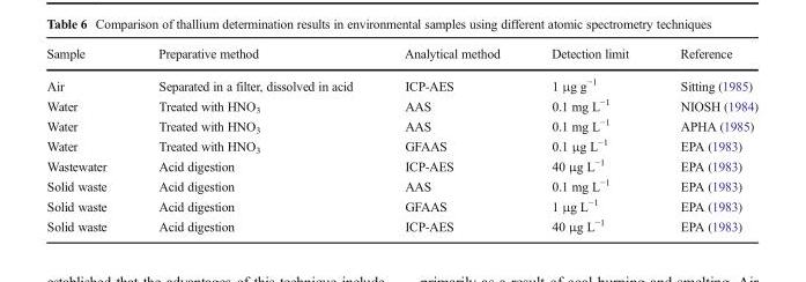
<table><thead><tr><td>Sample</td><td>Preparative method</td><td>Analytical method</td><td>Detection limit</td><td>Reference</td></tr></thead><tbody><tr><td>Air</td><td>Separated in a filter, dissolved in acid</td><td>ICP-AES</td><td>1 μg g<sup>−1</sup></td><td>Sitting (1985)</td></tr><tr><td>Water</td><td>Treated with HNO<sub>3</sub></td><td>AAS</td><td>0.1 mg L<sup>−1</sup></td><td>NIOSH (1984)</td></tr><tr><td>Water</td><td>Treated with HNO<sub>3</sub></td><td>AAS</td><td>0.1 mg L<sup>−1</sup></td><td>APHA (1985)</td></tr><tr><td>Water</td><td>Treated with HNO<sub>3</sub></td><td>GFAAS</td><td>0.1 μg L<sup>−1</sup></td><td>EPA (1983)</td></tr><tr><td>Wastewater</td><td>Acid digestion</td><td>ICP-AES</td><td>40 μg L<sup>−1</sup></td><td>EPA (1983)</td></tr><tr><td>Solid waste</td><td>Acid digestion</td><td>AAS</td><td>0.1 mg L<sup>−1</sup></td><td>EPA (1983)</td></tr><tr><td>Solid waste</td><td>Acid digestion</td><td>GFAAS</td><td>1 μg L<sup>−1</sup></td><td>EPA (1983)</td></tr><tr><td>Solid waste</td><td>Acid digestion</td><td>ICP-AES</td><td>40 μg L<sup>−1</sup></td><td>EPA (1983)</td></tr></tbody></table>